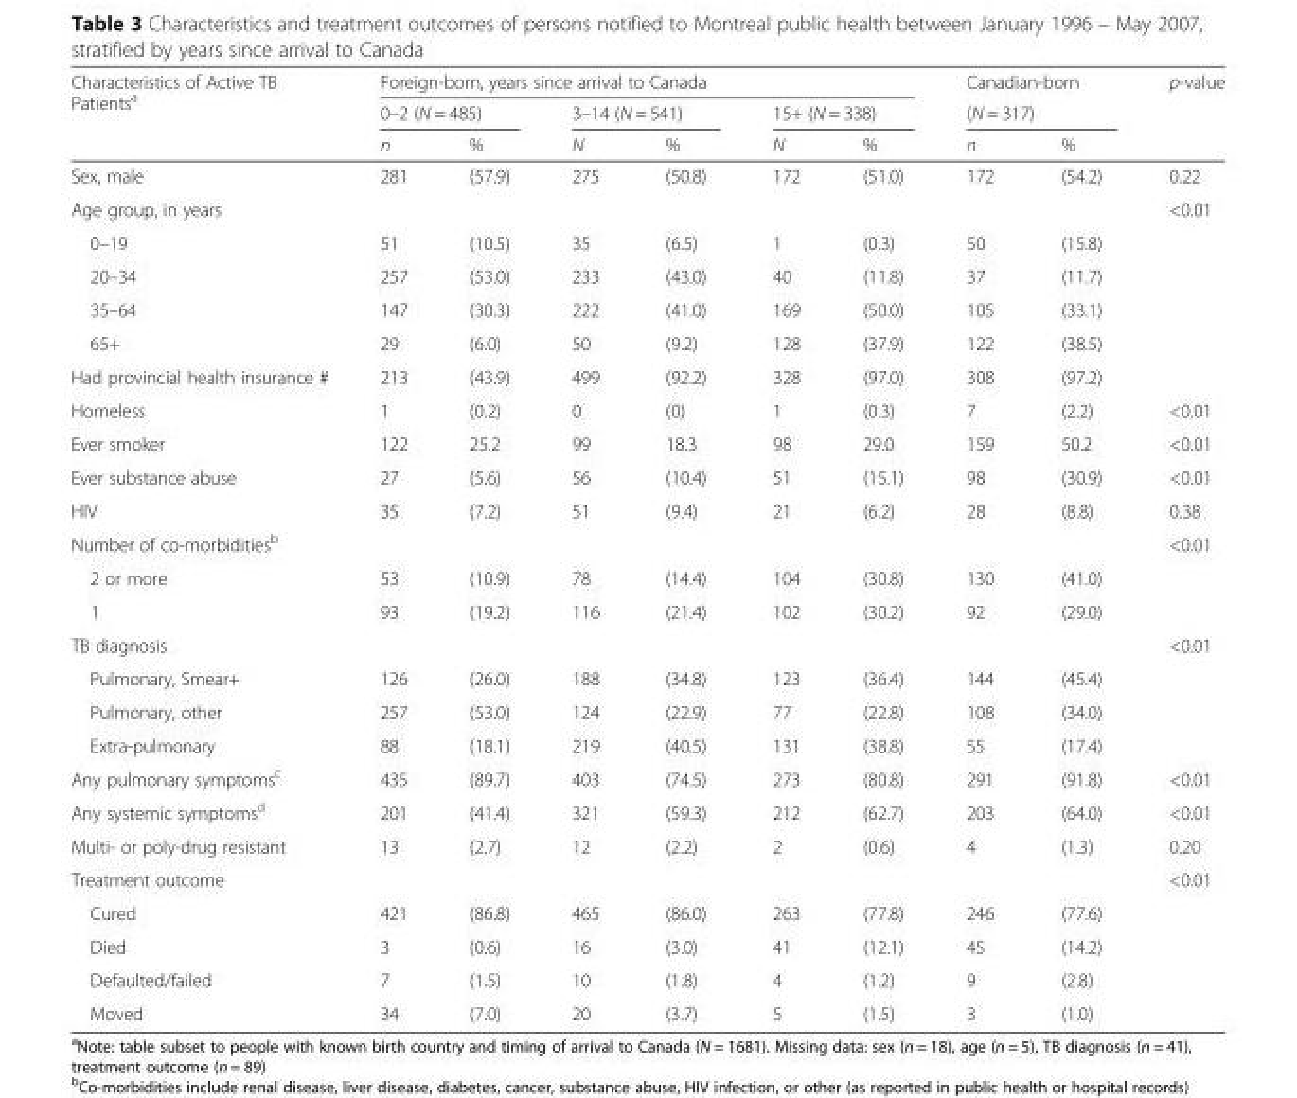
<table><thead><tr><td rowspan="3">Characteristics of Active TB Patients<sup>a</sup></td><td colspan="6">Foreign-born, years since arrival to Canada</td><td rowspan="2" colspan="2">Canadian-born (N = 317)</td><td rowspan="3">p-value</td></tr><tr><td colspan="2">0–2 (N = 485)</td><td colspan="2">3–14 (N = 541)</td><td colspan="2">15+ (N = 338)</td></tr><tr><td>n</td><td>%</td><td>N</td><td>%</td><td>N</td><td>%</td><td>n</td><td>%</td></tr></thead><tbody><tr><td>Sex, male</td><td>281</td><td>(57.9)</td><td>275</td><td>(50.8)</td><td>172</td><td>(51.0)</td><td>172</td><td>(54.2)</td><td>0.22</td></tr><tr><td>Age group, in years</td><td></td><td></td><td></td><td></td><td></td><td></td><td></td><td></td><td>&lt;0.01</td></tr><tr><td>0–19</td><td>51</td><td>(10.5)</td><td>35</td><td>(6.5)</td><td>1</td><td>(0.3)</td><td>50</td><td>(15.8)</td><td></td></tr><tr><td>20–34</td><td>257</td><td>(53.0)</td><td>233</td><td>(43.0)</td><td>40</td><td>(11.8)</td><td>37</td><td>(11.7)</td><td></td></tr><tr><td>35–64</td><td>147</td><td>(30.3)</td><td>222</td><td>(41.0)</td><td>169</td><td>(50.0)</td><td>105</td><td>(33.1)</td><td></td></tr><tr><td>65+</td><td>29</td><td>(6.0)</td><td>50</td><td>(9.2)</td><td>128</td><td>(37.9)</td><td>122</td><td>(38.5)</td><td></td></tr><tr><td>Had provincial health insurance #</td><td>213</td><td>(43.9)</td><td>499</td><td>(92.2)</td><td>328</td><td>(97.0)</td><td>308</td><td>(97.2)</td><td></td></tr><tr><td>Homeless</td><td>1</td><td>(0.2)</td><td>0</td><td>(0)</td><td>1</td><td>(0.3)</td><td>7</td><td>(2.2)</td><td>&lt;0.01</td></tr><tr><td>Ever smoker</td><td>122</td><td>25.2</td><td>99</td><td>18.3</td><td>98</td><td>29.0</td><td>159</td><td>50.2</td><td>&lt;0.01</td></tr><tr><td>Ever substance abuse</td><td>27</td><td>(5.6)</td><td>56</td><td>(10.4)</td><td>51</td><td>(15.1)</td><td>98</td><td>(30.9)</td><td>&lt;0.01</td></tr><tr><td>HIV</td><td>35</td><td>(7.2)</td><td>51</td><td>(9.4)</td><td>21</td><td>(6.2)</td><td>28</td><td>(8.8)</td><td>0.38</td></tr><tr><td>Number of co-morbidities<sup>b</sup></td><td></td><td></td><td></td><td></td><td></td><td></td><td></td><td></td><td>&lt;0.01</td></tr><tr><td>2 or more</td><td>53</td><td>(10.9)</td><td>78</td><td>(14.4)</td><td>104</td><td>(30.8)</td><td>130</td><td>(41.0)</td><td></td></tr><tr><td>1</td><td>93</td><td>(19.2)</td><td>116</td><td>(21.4)</td><td>102</td><td>(30.2)</td><td>92</td><td>(29.0)</td><td></td></tr><tr><td>TB diagnosis</td><td></td><td></td><td></td><td></td><td></td><td></td><td></td><td></td><td>&lt;0.01</td></tr><tr><td>Pulmonary, Smear+</td><td>126</td><td>(26.0)</td><td>188</td><td>(34.8)</td><td>123</td><td>(36.4)</td><td>144</td><td>(45.4)</td><td></td></tr><tr><td>Pulmonary, other</td><td>257</td><td>(53.0)</td><td>124</td><td>(22.9)</td><td>77</td><td>(22.8)</td><td>108</td><td>(34.0)</td><td></td></tr><tr><td>Extra-pulmonary</td><td>88</td><td>(18.1)</td><td>219</td><td>(40.5)</td><td>131</td><td>(38.8)</td><td>55</td><td>(17.4)</td><td></td></tr><tr><td>Any pulmonary symptoms<sup>c</sup></td><td>435</td><td>(89.7)</td><td>403</td><td>(74.5)</td><td>273</td><td>(80.8)</td><td>291</td><td>(91.8)</td><td>&lt;0.01</td></tr><tr><td>Any systemic symptoms<sup>d</sup></td><td>201</td><td>(41.4)</td><td>321</td><td>(59.3)</td><td>212</td><td>(62.7)</td><td>203</td><td>(64.0)</td><td>&lt;0.01</td></tr><tr><td>Multi- or poly-drug resistant</td><td>13</td><td>(2.7)</td><td>12</td><td>(2.2)</td><td>2</td><td>(0.6)</td><td>4</td><td>(1.3)</td><td>0.20</td></tr><tr><td>Treatment outcome</td><td></td><td></td><td></td><td></td><td></td><td></td><td></td><td></td><td>&lt;0.01</td></tr><tr><td>Cured</td><td>421</td><td>(86.8)</td><td>465</td><td>(86.0)</td><td>263</td><td>(77.8)</td><td>246</td><td>(77.6)</td><td></td></tr><tr><td>Died</td><td>3</td><td>(0.6)</td><td>16</td><td>(3.0)</td><td>41</td><td>(12.1)</td><td>45</td><td>(14.2)</td><td></td></tr><tr><td>Defaulted/failed</td><td>7</td><td>(1.5)</td><td>10</td><td>(1.8)</td><td>4</td><td>(1.2)</td><td>9</td><td>(2.8)</td><td></td></tr><tr><td>Moved</td><td>34</td><td>(7.0)</td><td>20</td><td>(3.7)</td><td>5</td><td>(1.5)</td><td>3</td><td>(1.0)</td><td></td></tr></tbody></table>